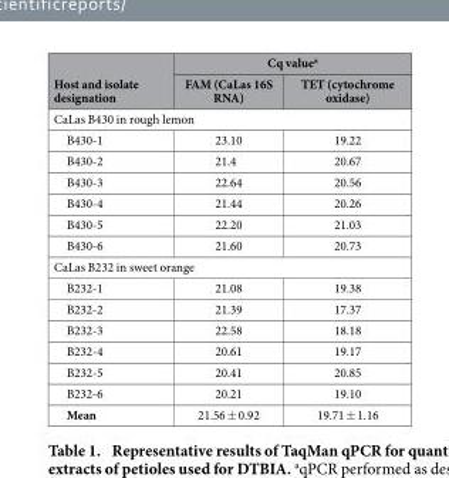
<table><thead><tr><td rowspan="2">Host and isolate designation</td><td colspan="2">Cq value<sup>a</sup></td></tr><tr><td>FAM (CaLas 16S RNA)</td><td>TET (cytochrome oxidase)</td></tr></thead><tbody><tr><td colspan="3">CaLas B430 in rough lemon</td></tr><tr><td>B430-1</td><td>23.10</td><td>19.22</td></tr><tr><td>B430-2</td><td>21.4</td><td>20.67</td></tr><tr><td>B430-3</td><td>22.64</td><td>20.56</td></tr><tr><td>B430-4</td><td>21.44</td><td>20.26</td></tr><tr><td>B430-5</td><td>22.20</td><td>21.03</td></tr><tr><td>B430-6</td><td>21.60</td><td>20.73</td></tr><tr><td colspan="3">CaLas B232 in sweet orange</td></tr><tr><td>B232-1</td><td>21.08</td><td>19.38</td></tr><tr><td>B232-2</td><td>21.39</td><td>17.37</td></tr><tr><td>B232-3</td><td>22.58</td><td>18.18</td></tr><tr><td>B232-4</td><td>20.61</td><td>19.17</td></tr><tr><td>B232-5</td><td>20.41</td><td>20.85</td></tr><tr><td>B232-6</td><td>20.21</td><td>19.10</td></tr><tr><td>Mean</td><td>21.56 ± 0.92</td><td>19.71 ± 1.16</td></tr></tbody></table>